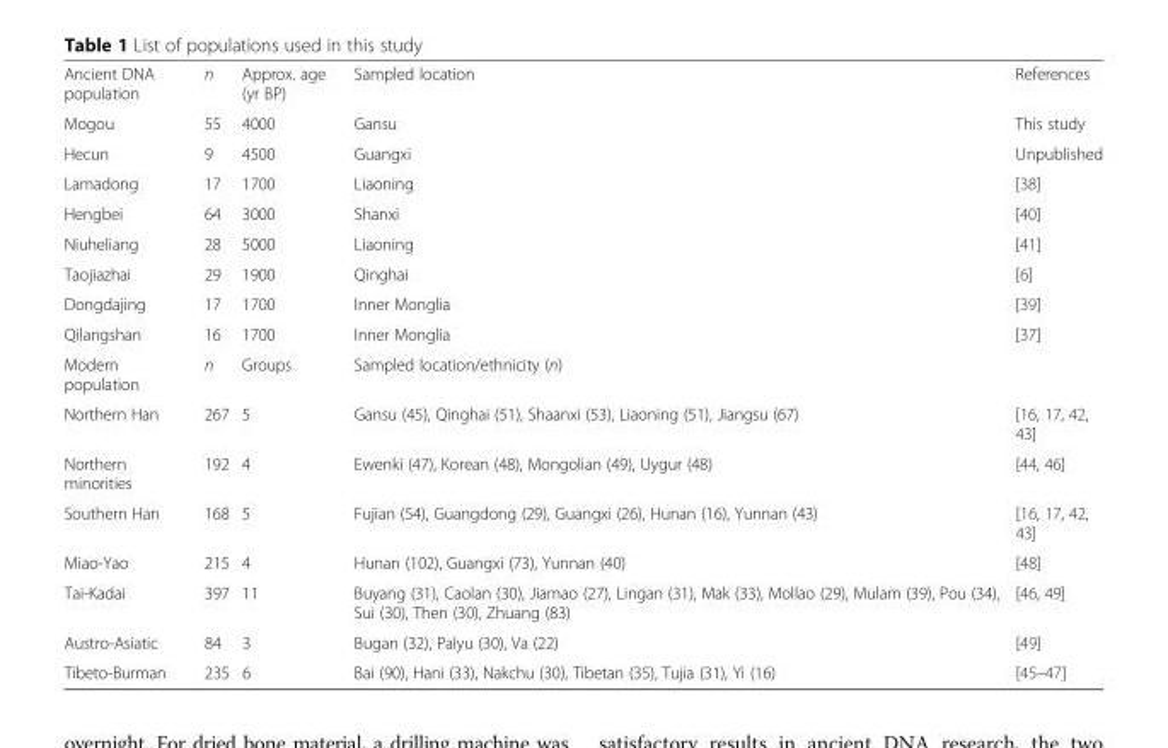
<table><tbody><tr><td>Ancient DNA population</td><td>n</td><td>Approx. age (yr BP)</td><td>Sampled location</td><td>References</td></tr><tr><td>Mogou</td><td>55</td><td>4000</td><td>Gansu</td><td>This study</td></tr><tr><td>Hecun</td><td>9</td><td>4500</td><td>Guangxi</td><td>Unpublished</td></tr><tr><td>Lamadong</td><td>17</td><td>1700</td><td>Liaoning</td><td>[38]</td></tr><tr><td>Hengbei</td><td>64</td><td>3000</td><td>Shanxi</td><td>[40]</td></tr><tr><td>Niuheliang</td><td>28</td><td>5000</td><td>Liaoning</td><td>[41]</td></tr><tr><td>Taojiazhai</td><td>29</td><td>1900</td><td>Qinghai</td><td>[6]</td></tr><tr><td>Dongdajing</td><td>17</td><td>1700</td><td>Inner Monglia</td><td>[39]</td></tr><tr><td>Qilangshan</td><td>16</td><td>1700</td><td>Inner Monglia</td><td>[37]</td></tr><tr><td>Modern population</td><td>n</td><td>Groups</td><td>Sampled location/ethnicity (n)</td><td></td></tr><tr><td>Northern Han</td><td>267</td><td>5</td><td>Gansu (45), Qinghai (51), Shaanxi (53), Liaoning (51), Jiangsu (67)</td><td>[16, 17, 42, 43]</td></tr><tr><td>Northern minorities</td><td>192</td><td>4</td><td>Ewenki (47), Korean (48), Mongolian (49), Uygur (48)</td><td>[44, 46]</td></tr><tr><td>Southern Han</td><td>168</td><td>5</td><td>Fujian (54), Guangdong (29), Guangxi (26), Hunan (16), Yunnan (43)</td><td>[16, 17, 42, 43]</td></tr><tr><td>Miao-Yao</td><td>215</td><td>4</td><td>Hunan (102), Guangxi (73), Yunnan (40)</td><td>[48]</td></tr><tr><td>Tai-Kadai</td><td>397</td><td>11</td><td>Buyang (31), Caolan (30), Jiamao (27), Lingan (31), Mak (33), Mollao (29), Mulam (39), Pou (34), Sui (30), Then (30), Zhuang (83)</td><td>[46, 49]</td></tr><tr><td>Austro-Asiatic</td><td>84</td><td>3</td><td>Bugan (32), Palyu (30), Va (22)</td><td>[49]</td></tr><tr><td>Tibeto-Burman</td><td>235</td><td>6</td><td>Bai (90), Hani (33), Nakchu (30), Tibetan (35), Tujia (31), Yi (16)</td><td>[45–47]</td></tr></tbody></table>